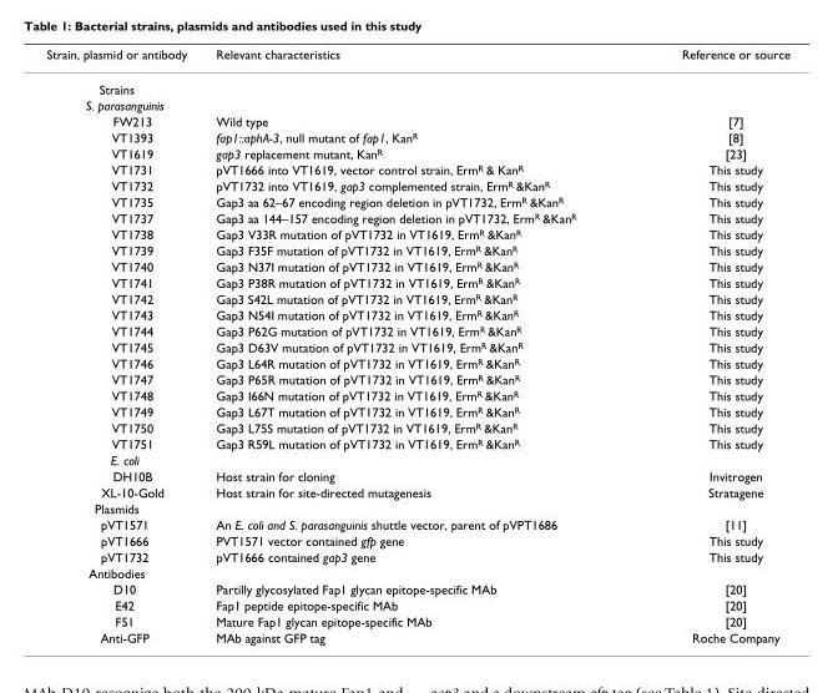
<table><thead><tr><td>Strain, plasmid or antibody</td><td>Relevant characteristics</td><td>Reference or source</td></tr></thead><tbody><tr><td colspan="3">Strains</td></tr><tr><td colspan="3">S. parasanguinis</td></tr><tr><td>FW213</td><td>Wild type</td><td>[7]</td></tr><tr><td>VT1393</td><td>fap1::aphA-3, null mutant of fap1, Kan<sup>R</sup></td><td>[8]</td></tr><tr><td>VT1619</td><td>gap3 replacement mutant, Kan<sup>R</sup></td><td>[23]</td></tr><tr><td>VT1731</td><td>pVT1666 into VT1619, vector control strain, Erm<sup>R</sup> &amp; Kan<sup>R</sup></td><td>This study</td></tr><tr><td>VT1732</td><td>pVT1732 into VT1619, gap3 complemented strain, Erm<sup>R</sup> &amp;Kan<sup>R</sup></td><td>This study</td></tr><tr><td>VT1735</td><td>Gap3 aa 62–67 encoding region deletion in pVT1732, Erm<sup>R</sup> &amp;Kan<sup>R</sup></td><td>This study</td></tr><tr><td>VT1737</td><td>Gap3 aa 144–157 encoding region deletion in pVT1732, Erm<sup>R</sup> &amp;Kan<sup>R</sup></td><td>This study</td></tr><tr><td>VT1738</td><td>Gap3 V33R mutation of pVT1732 in VT1619, Erm<sup>R</sup> &amp;Kan<sup>R</sup></td><td>This study</td></tr><tr><td>VT1739</td><td>Gap3 F35F mutation of pVT1732 in VT1619, Erm<sup>R</sup> &amp;Kan<sup>R</sup></td><td>This study</td></tr><tr><td>VT1740</td><td>Gap3 N37I mutation of pVT1732 in VT1619, Erm<sup>R</sup> &amp;Kan<sup>R</sup></td><td>This study</td></tr><tr><td>VT1741</td><td>Gap3 P38R mutation of pVT1732 in VT1619, Erm<sup>R</sup> &amp;Kan<sup>R</sup></td><td>This study</td></tr><tr><td>VT1742</td><td>Gap3 S42L mutation of pVT1732 in VT1619, Erm<sup>R</sup> &amp;Kan<sup>R</sup></td><td>This study</td></tr><tr><td>VT1743</td><td>Gap3 N54I mutation of pVT1732 in VT1619, Erm<sup>R</sup> &amp;Kan<sup>R</sup></td><td>This study</td></tr><tr><td>VT1744</td><td>Gap3 P62G mutation of pVT1732 in VT1619, Erm<sup>R</sup> &amp;Kan<sup>R</sup></td><td>This study</td></tr><tr><td>VT1745</td><td>Gap3 D63V mutation of pVT1732 in VT1619, Erm<sup>R</sup> &amp;Kan<sup>R</sup></td><td>This study</td></tr><tr><td>VT1746</td><td>Gap3 L64R mutation of pVT1732 in VT1619, Erm<sup>R</sup> &amp;Kan<sup>R</sup></td><td>This study</td></tr><tr><td>VT1747</td><td>Gap3 P65R mutation of pVT1732 in VT1619, Erm<sup>R</sup> &amp;Kan<sup>R</sup></td><td>This study</td></tr><tr><td>VT1748</td><td>Gap3 I66N mutation of pVT1732 in VT1619, Erm<sup>R</sup> &amp;Kan<sup>R</sup></td><td>This study</td></tr><tr><td>VT1749</td><td>Gap3 L67T mutation of pVT1732 in VT1619, Erm<sup>R</sup> &amp;Kan<sup>R</sup></td><td>This study</td></tr><tr><td>VT1750</td><td>Gap3 L75S mutation of pVT1732 in VT1619, Erm<sup>R</sup> &amp;Kan<sup>R</sup></td><td>This study</td></tr><tr><td>VT1751</td><td>Gap3 R59L mutation of pVT1732 in VT1619, Erm<sup>R</sup> &amp;Kan<sup>R</sup></td><td>This study</td></tr><tr><td colspan="3">E. coli</td></tr><tr><td>DH10B</td><td>Host strain for cloning</td><td>Invitrogen</td></tr><tr><td>XL-10-Gold</td><td>Host strain for site-directed mutagenesis</td><td>Stratagene</td></tr><tr><td colspan="3">Plasmids</td></tr><tr><td>pVT1571</td><td>An E. coli and S. parasanguinis shuttle vector, parent of pVPT1686</td><td>[11]</td></tr><tr><td>pVT1666</td><td>PVT1571 vector contained gfp gene</td><td>This study</td></tr><tr><td>pVT1732</td><td>pVT1666 contained gap3 gene</td><td>This study</td></tr><tr><td colspan="3">Antibodies</td></tr><tr><td>D10</td><td>Partilly glycosylated Fap1 glycan epitope-specific MAb</td><td>[20]</td></tr><tr><td>E42</td><td>Fap1 peptide epitope-specific MAb</td><td>[20]</td></tr><tr><td>F51</td><td>Mature Fap1 glycan epitope-specific MAb</td><td>[20]</td></tr><tr><td>Anti-GFP</td><td>MAb against GFP tag</td><td>Roche Company</td></tr></tbody></table>